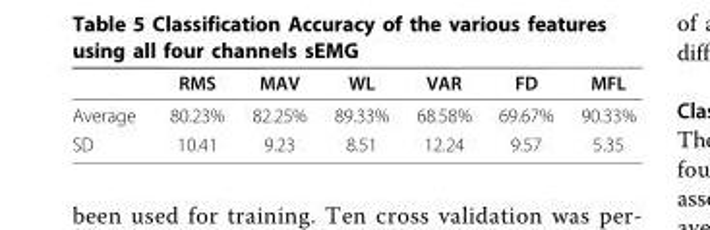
<table><thead><tr><td></td><td>RMS</td><td>MAV</td><td>WL</td><td>VAR</td><td>FD</td><td>MFL</td></tr></thead><tbody><tr><td>Average</td><td>80.23%</td><td>82.25%</td><td>89.33%</td><td>68.58%</td><td>69.67%</td><td>90.33%</td></tr><tr><td>SD</td><td>10.41</td><td>9.23</td><td>8.51</td><td>12.24</td><td>9.57</td><td>5.35</td></tr></tbody></table>